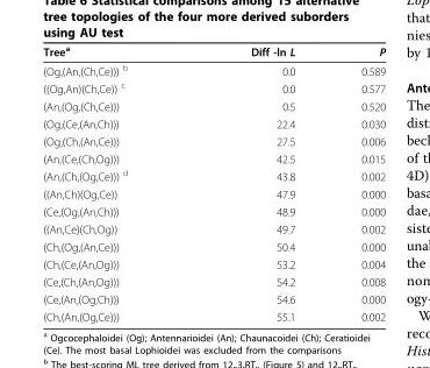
<table><thead><tr><td>Tree<sup>a</sup></td><td>Diff -ln L</td><td>P</td></tr></thead><tbody><tr><td>(Og,(An,(Ch,Ce))) <sup>b</sup></td><td>0.0</td><td>0.589</td></tr><tr><td>((Og,An)(Ch,Ce)) <sup>c</sup></td><td>0.0</td><td>0.577</td></tr><tr><td>(An,(Og,(Ch,Ce)))</td><td>0.5</td><td>0.520</td></tr><tr><td>(Og,(Ce,(An,Ch)))</td><td>22.4</td><td>0.030</td></tr><tr><td>(Og,(Ch,(An,Ce)))</td><td>27.5</td><td>0.006</td></tr><tr><td>(An,(Ce,(Ch,Og)))</td><td>42.5</td><td>0.015</td></tr><tr><td>(An,(Ch,(Og,Ce))) <sup>d</sup></td><td>43.8</td><td>0.002</td></tr><tr><td>((An,Ch)(Og,Ce))</td><td>47.9</td><td>0.000</td></tr><tr><td>(Ce,(Og,(An,Ch)))</td><td>48.9</td><td>0.000</td></tr><tr><td>((An,Ce)(Ch,Og))</td><td>49.7</td><td>0.002</td></tr><tr><td>(Ch,(Og,(An,Ce)))</td><td>50.4</td><td>0.000</td></tr><tr><td>(Ch,(Ce,(An,Og)))</td><td>53.2</td><td>0.004</td></tr><tr><td>(Ce,(Ch,(An,Og)))</td><td>54.2</td><td>0.008</td></tr><tr><td>(Ce,(An,(Og,Ch)))</td><td>54.6</td><td>0.000</td></tr><tr><td>(Ch,(An,(Og,Ce)))</td><td>55.1</td><td>0.002</td></tr></tbody></table>